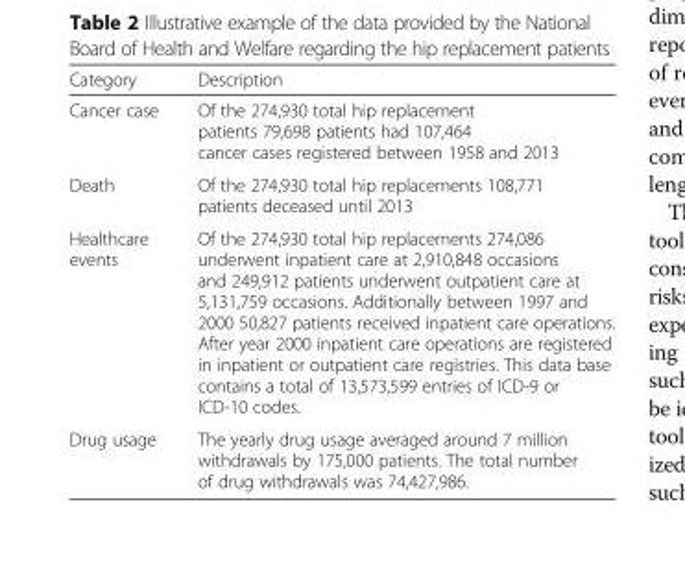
<table><thead><tr><td>Category</td><td>Description</td></tr></thead><tbody><tr><td>Cancer case</td><td>Of the 274,930 total hip replacement patients 79,698 patients had 107,464 cancer cases registered between 1958 and 2013</td></tr><tr><td>Death</td><td>Of the 274,930 total hip replacements 108,771 patients deceased until 2013</td></tr><tr><td>Healthcare events</td><td>Of the 274,930 total hip replacements 274,086 underwent inpatient care at 2,910,848 occasions and 249,912 patients underwent outpatient care at 5,131,759 occasions. Additionally between 1997 and 2000 50,827 patients received inpatient care operations. After year 2000 inpatient care operations are registered in inpatient or outpatient care registries. This data base contains a total of 13,573,599 entries of ICD-9 or ICD-10 codes.</td></tr><tr><td>Drug usage</td><td>The yearly drug usage averaged around 7 million withdrawals by 175,000 patients. The total number of drug withdrawals was 74,427,986.</td></tr></tbody></table>